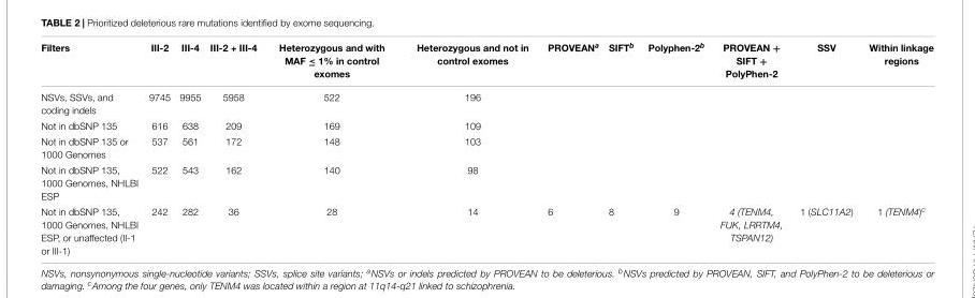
<table><thead><tr><td>Filters</td><td>III-2</td><td>III-4</td><td>III-2 + III-4</td><td>Heterozygous and with MAF ≤ 1% in control exomes</td><td>Heterozygous and not in control exomes</td><td>PROVEAN<sup>a</sup></td><td>SIFT<sup>b</sup></td><td>Polyphen-2<sup>b</sup></td><td>PROVEAN + SIFT + PolyPhen-2</td><td>SSV</td><td>Within linkage regions</td></tr></thead><tbody><tr><td>NSVs, SSVs, and coding indels</td><td>9745</td><td>9955</td><td>5958</td><td>522</td><td>196</td><td></td><td></td><td></td><td></td><td></td><td></td></tr><tr><td>Not in dbSNP 135</td><td>616</td><td>638</td><td>209</td><td>169</td><td>109</td><td></td><td></td><td></td><td></td><td></td><td></td></tr><tr><td>Not in dbSNP 135 or 1000 Genomes</td><td>537</td><td>561</td><td>172</td><td>148</td><td>103</td><td></td><td></td><td></td><td></td><td></td><td></td></tr><tr><td>Not in dbSNP 135, 1000 Genomes, NHLBI ESP</td><td>522</td><td>543</td><td>162</td><td>140</td><td>98</td><td></td><td></td><td></td><td></td><td></td><td></td></tr><tr><td>Not in dbSNP 135, 1000 Genomes, NHLBI ESP, or unaffected (II-1 or III-1)</td><td>242</td><td>282</td><td>36</td><td>28</td><td>14</td><td>6</td><td>8</td><td>9</td><td>4 (TENM4, FUK, LRRTM4, TSPAN12)</td><td>1 (SLC11A2)</td><td>1 (TENM4)<sup>c</sup></td></tr></tbody></table>